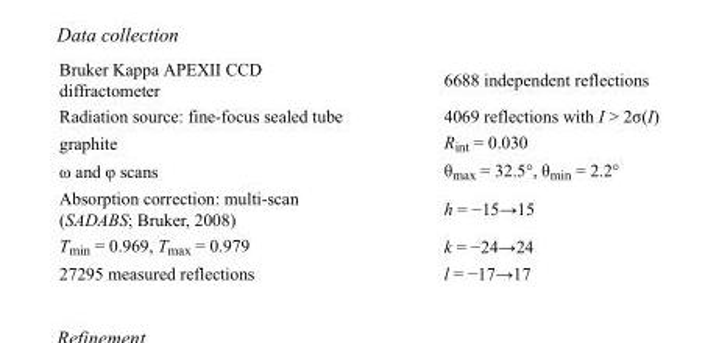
<table><tbody><tr><td>Bruker Kappa APEXII CCD diffractometer</td><td>6688 independent reflections</td></tr><tr><td>Radiation source: fine-focus sealed tube</td><td>4069 reflections with I &gt; 2σ(I)</td></tr><tr><td>graphite</td><td>R<sub>int</sub> = 0.030</td></tr><tr><td>ω and φ scans</td><td>θ<sub>max</sub> = 32.5°, θ<sub>min</sub> = 2.2°</td></tr><tr><td>Absorption correction: multi-scan (SADABS; Bruker, 2008)</td><td>h = −15→15</td></tr><tr><td>T<sub>min</sub> = 0.969, T<sub>max</sub> = 0.979</td><td>k = −24→24</td></tr><tr><td>27295 measured reflections</td><td>l = −17→17</td></tr></tbody></table>